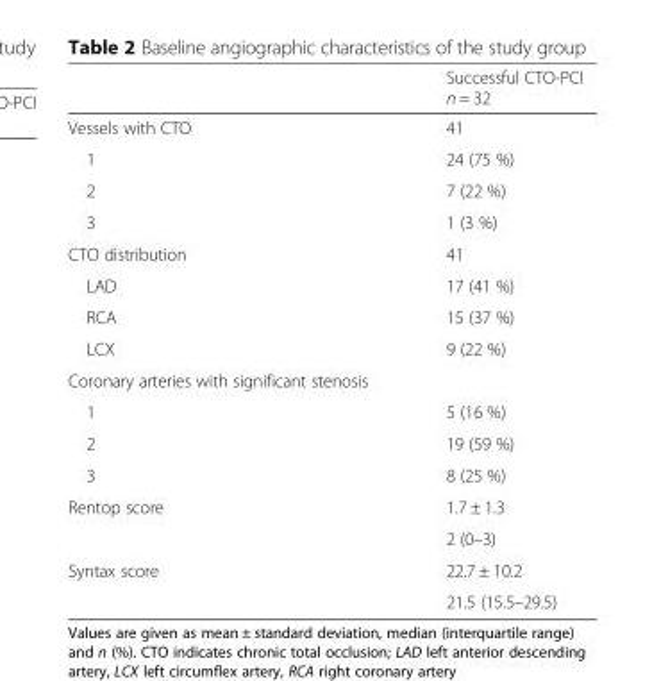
<table><thead><tr><td></td><td>Successful CTO-PCI n = 32</td></tr></thead><tbody><tr><td>Vessels with CTO</td><td>41</td></tr><tr><td>1</td><td>24 (75 %)</td></tr><tr><td>2</td><td>7 (22 %)</td></tr><tr><td>3</td><td>1 (3 %)</td></tr><tr><td>CTO distribution</td><td>41</td></tr><tr><td>LAD</td><td>17 (41 %)</td></tr><tr><td>RCA</td><td>15 (37 %)</td></tr><tr><td>LCX</td><td>9 (22 %)</td></tr><tr><td colspan="2">Coronary arteries with significant stenosis</td></tr><tr><td>1</td><td>5 (16 %)</td></tr><tr><td>2</td><td>19 (59 %)</td></tr><tr><td>3</td><td>8 (25 %)</td></tr><tr><td rowspan="2">Rentop score</td><td>1.7 ± 1.3</td></tr><tr><td>2 (0–3)</td></tr><tr><td rowspan="2">Syntax score</td><td>22.7 ± 10.2</td></tr><tr><td>21.5 (15.5–29.5)</td></tr></tbody></table>